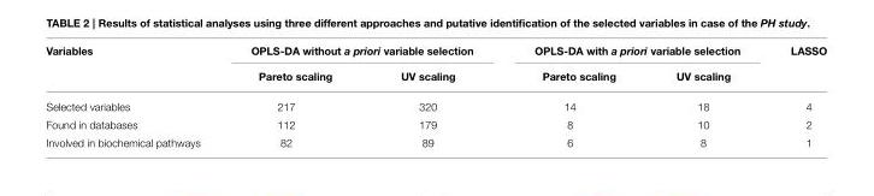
<table><thead><tr><td rowspan="2">Variables</td><td colspan="2">OPLS-DA without a priori variable selection</td><td colspan="2">OPLS-DA with a priori variable selection</td><td rowspan="2">LASSO</td></tr><tr><td>Pareto scaling</td><td>UV scaling</td><td>Pareto scaling</td><td>UV scaling</td></tr></thead><tbody><tr><td>Selected variables</td><td>217</td><td>320</td><td>14</td><td>18</td><td>4</td></tr><tr><td>Found in databases</td><td>112</td><td>179</td><td>8</td><td>10</td><td>2</td></tr><tr><td>Involved in biochemical pathways</td><td>82</td><td>89</td><td>6</td><td>8</td><td>1</td></tr></tbody></table>